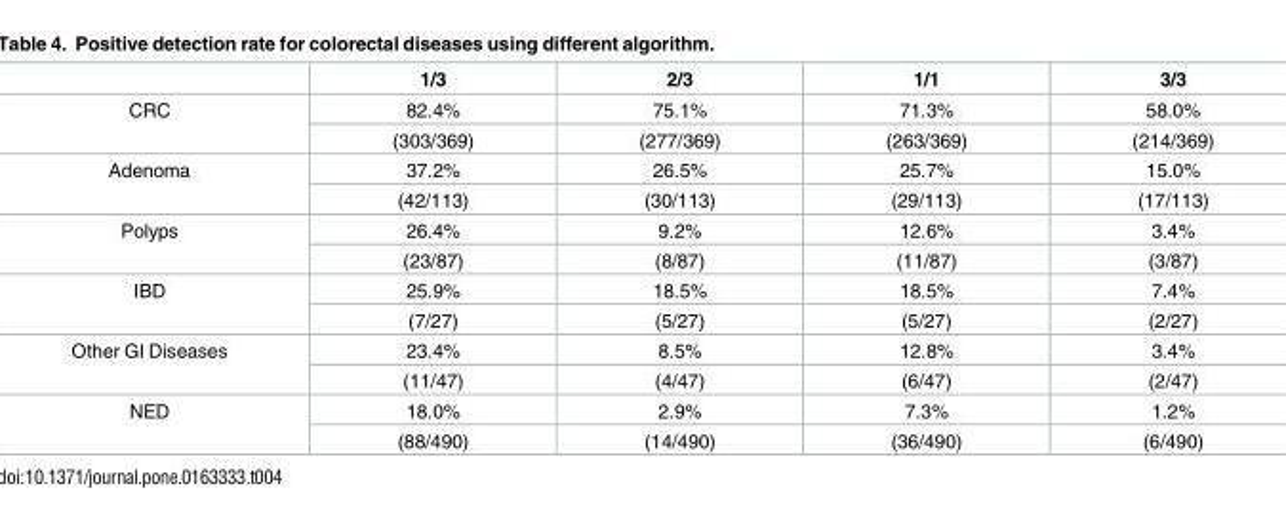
<table><thead><tr><td></td><td>1/3</td><td>2/3</td><td>1/1</td><td>3/3</td></tr></thead><tbody><tr><td rowspan="2">CRC</td><td>82.4%</td><td>75.1%</td><td>71.3%</td><td>58.0%</td></tr><tr><td>(303/369)</td><td>(277/369)</td><td>(263/369)</td><td>(214/369)</td></tr><tr><td rowspan="2">Adenoma</td><td>37.2%</td><td>26.5%</td><td>25.7%</td><td>15.0%</td></tr><tr><td>(42/113)</td><td>(30/113)</td><td>(29/113)</td><td>(17/113)</td></tr><tr><td rowspan="2">Polyps</td><td>26.4%</td><td>9.2%</td><td>12.6%</td><td>3.4%</td></tr><tr><td>(23/87)</td><td>(8/87)</td><td>(11/87)</td><td>(3/87)</td></tr><tr><td rowspan="2">IBD</td><td>25.9%</td><td>18.5%</td><td>18.5%</td><td>7.4%</td></tr><tr><td>(7/27)</td><td>(5/27)</td><td>(5/27)</td><td>(2/27)</td></tr><tr><td rowspan="2">Other GI Diseases</td><td>23.4%</td><td>8.5%</td><td>12.8%</td><td>3.4%</td></tr><tr><td>(11/47)</td><td>(4/47)</td><td>(6/47)</td><td>(2/47)</td></tr><tr><td rowspan="2">NED</td><td>18.0%</td><td>2.9%</td><td>7.3%</td><td>1.2%</td></tr><tr><td>(88/490)</td><td>(14/490)</td><td>(36/490)</td><td>(6/490)</td></tr></tbody></table>